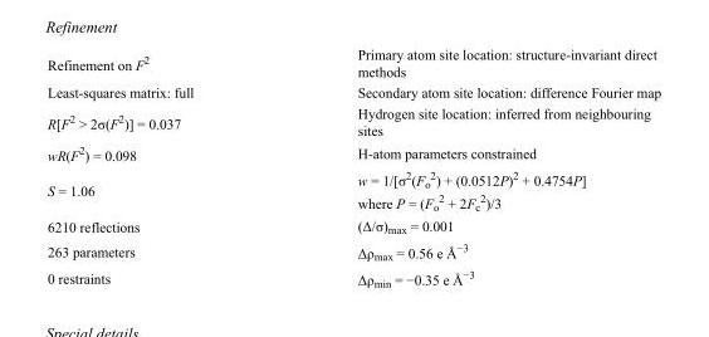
<table><tbody><tr><td>Refinement on F<sup>2</sup></td><td>Primary atom site location: structure-invariant direct methods</td></tr><tr><td>Least-squares matrix: full</td><td>Secondary atom site location: difference Fourier map</td></tr><tr><td>R[F<sup>2</sup> &gt; 2σ(F<sup>2</sup>)] = 0.037</td><td>Hydrogen site location: inferred from neighbouring sites</td></tr><tr><td>wR(F<sup>2</sup>) = 0.098</td><td>H-atom parameters constrained</td></tr><tr><td>S = 1.06</td><td>w = 1/[σ<sup>2</sup>(F<sub>o</sub> <sup>2</sup>) + (0.0512P)<sup>2</sup> + 0.4754P] where P = (F<sub>o</sub> <sup>2</sup> + 2F<sub>c</sub> <sup>2</sup>)/3</td></tr><tr><td>6210 reflections</td><td>(Δ/σ)<sub>max</sub> = 0.001</td></tr><tr><td>263 parameters</td><td>Δρ<sub>max</sub> = 0.56 e Å<sup>−3</sup></td></tr><tr><td>0 restraints</td><td>Δρ<sub>min</sub> = −0.35 e Å<sup>−3</sup></td></tr></tbody></table>